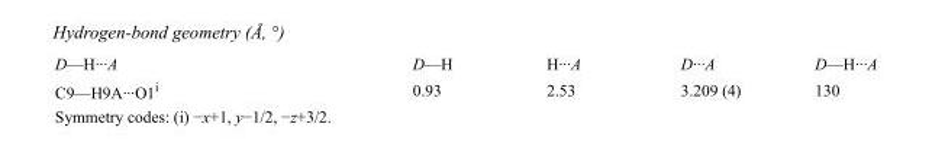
<table><tbody><tr><td>D—H···A</td><td>D—H</td><td>H···A</td><td>D···A</td><td>D—H···A</td></tr><tr><td>C9—H9A···O1<sup>i</sup></td><td>0.93</td><td>2.53</td><td>3.209 (4)</td><td>130</td></tr></tbody></table>